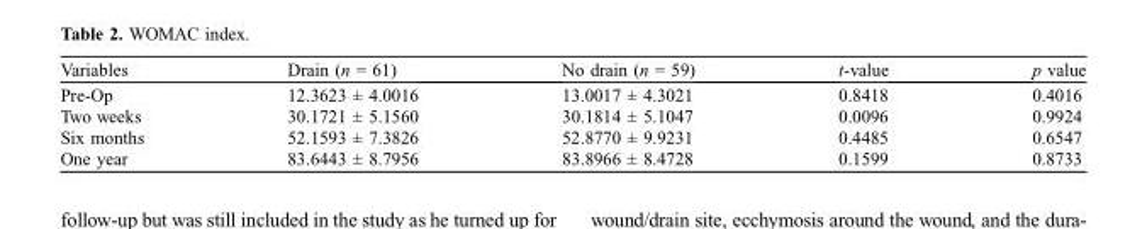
<table><thead><tr><td>Variables</td><td>Drain (n = 61)</td><td>No drain (n = 59)</td><td>t-value</td><td>p value</td></tr></thead><tbody><tr><td>Pre-Op</td><td>12.3623 ± 4.0016</td><td>13.0017 ± 4.3021</td><td>0.8418</td><td>0.4016</td></tr><tr><td>Two weeks</td><td>30.1721 ± 5.1560</td><td>30.1814 ± 5.1047</td><td>0.0096</td><td>0.9924</td></tr><tr><td>Six months</td><td>52.1593 ± 7.3826</td><td>52.8770 ± 9.9231</td><td>0.4485</td><td>0.6547</td></tr><tr><td>One year</td><td>83.6443 ± 8.7956</td><td>83.8966 ± 8.4728</td><td>0.1599</td><td>0.8733</td></tr></tbody></table>